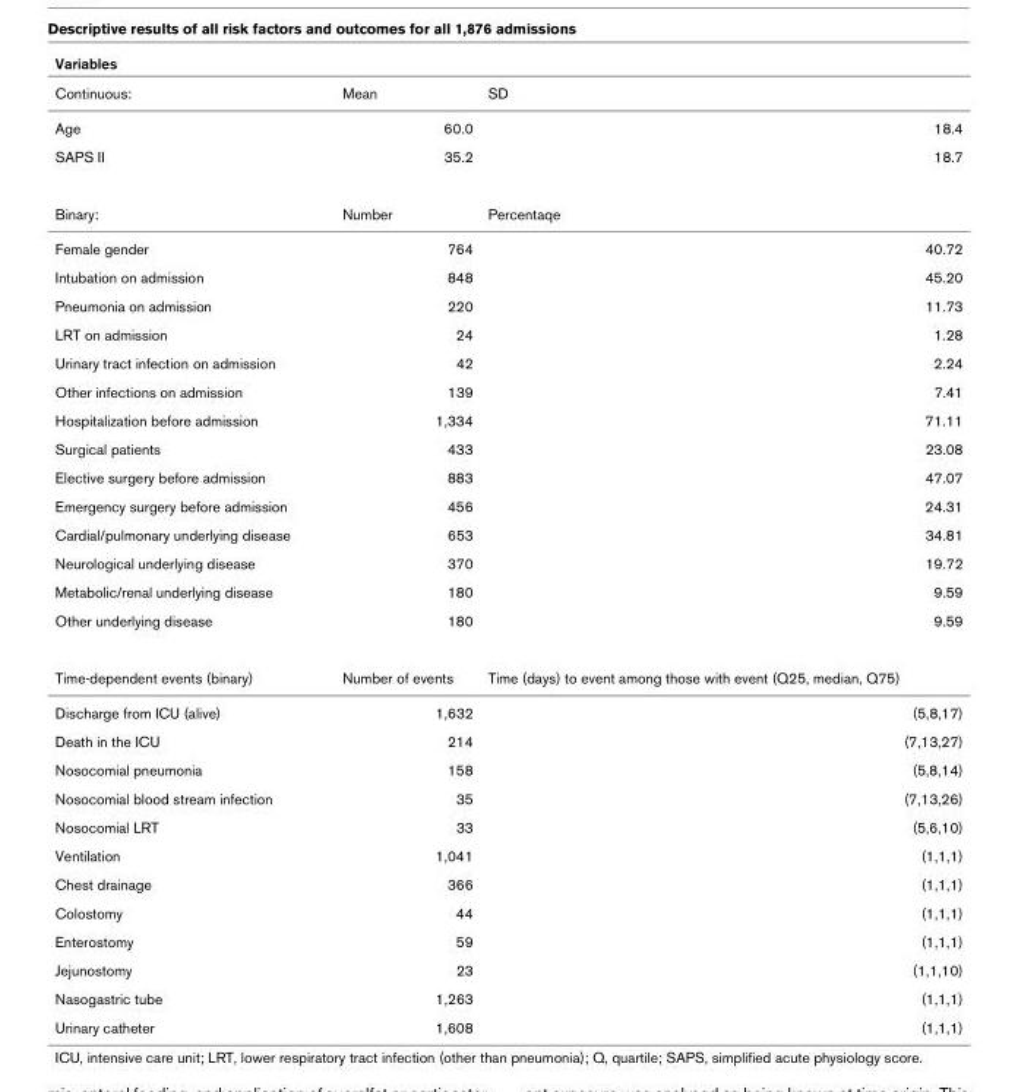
<table><thead><tr><td>Variables</td><td></td><td></td></tr></thead><tbody><tr><td>Continuous:</td><td>Mean</td><td>SD</td></tr><tr><td>Age</td><td>60.0</td><td>18.4</td></tr><tr><td>SAPS II</td><td>35.2</td><td>18.7</td></tr><tr><td>Binary:</td><td>Number</td><td>Percentaqe</td></tr><tr><td>Female gender</td><td>764</td><td>40.72</td></tr><tr><td>Intubation on admission</td><td>848</td><td>45.20</td></tr><tr><td>Pneumonia on admission</td><td>220</td><td>11.73</td></tr><tr><td>LRT on admission</td><td>24</td><td>1.28</td></tr><tr><td>Urinary tract infection on admission</td><td>42</td><td>2.24</td></tr><tr><td>Other infections on admission</td><td>139</td><td>7.41</td></tr><tr><td>Hospitalization before admission</td><td>1,334</td><td>71.11</td></tr><tr><td>Surgical patients</td><td>433</td><td>23.08</td></tr><tr><td>Elective surgery before admission</td><td>883</td><td>47.07</td></tr><tr><td>Emergency surgery before admission</td><td>456</td><td>24.31</td></tr><tr><td>Cardial/pulmonary underlying disease</td><td>653</td><td>34.81</td></tr><tr><td>Neurological underlying disease</td><td>370</td><td>19.72</td></tr><tr><td>Metabolic/renal underlying disease</td><td>180</td><td>9.59</td></tr><tr><td>Other underlying disease</td><td>180</td><td>9.59</td></tr><tr><td>Time-dependent events (binary)</td><td>Number of events</td><td>Time (days) to event among those with event (Q25, median, Q75)</td></tr><tr><td>Discharge from ICU (alive)</td><td>1,632</td><td>(5,8,17)</td></tr><tr><td>Death in the ICU</td><td>214</td><td>(7,13,27)</td></tr><tr><td>Nosocomial pneumonia</td><td>158</td><td>(5,8,14)</td></tr><tr><td>Nosocomial blood stream infection</td><td>35</td><td>(7,13,26)</td></tr><tr><td>Nosocomial LRT</td><td>33</td><td>(5,6,10)</td></tr><tr><td>Ventilation</td><td>1,041</td><td>(1,1,1)</td></tr><tr><td>Chest drainage</td><td>366</td><td>(1,1,1)</td></tr><tr><td>Colostomy</td><td>44</td><td>(1,1,1)</td></tr><tr><td>Enterostomy</td><td>59</td><td>(1,1,1)</td></tr><tr><td>Jejunostomy</td><td>23</td><td>(1,1,10)</td></tr><tr><td>Nasogastric tube</td><td>1,263</td><td>(1,1,1)</td></tr><tr><td>Urinary catheter</td><td>1,608</td><td>(1,1,1)</td></tr></tbody></table>